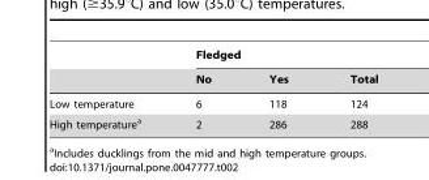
<table><thead><tr><td rowspan="2"></td><td colspan="3">Fledged</td></tr><tr><td>No</td><td>Yes</td><td>Total</td></tr></thead><tbody><tr><td>Low temperature</td><td>6</td><td>118</td><td>124</td></tr><tr><td>High temperature<sup>a</sup></td><td>2</td><td>286</td><td>288</td></tr></tbody></table>